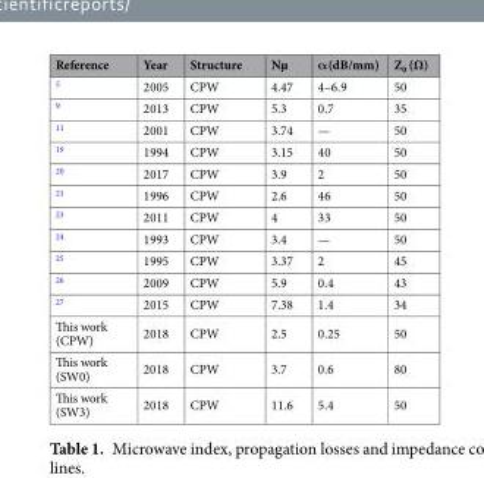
<table><thead><tr><td>Reference</td><td>Year</td><td>Structure</td><td>Nµ</td><td>α(dB/mm)</td><td>Z<sub>0</sub> (Ω)</td></tr></thead><tbody><tr><td><sup>5</sup></td><td>2005</td><td>CPW</td><td>4.47</td><td>4–6.9</td><td>50</td></tr><tr><td><sup>9</sup></td><td>2013</td><td>CPW</td><td>5.3</td><td>0.7</td><td>35</td></tr><tr><td><sup>11</sup></td><td>2001</td><td>CPW</td><td>3.74</td><td>—</td><td>50</td></tr><tr><td><sup>19</sup></td><td>1994</td><td>CPW</td><td>3.15</td><td>40</td><td>50</td></tr><tr><td><sup>20</sup></td><td>2017</td><td>CPW</td><td>3.9</td><td>2</td><td>50</td></tr><tr><td><sup>21</sup></td><td>1996</td><td>CPW</td><td>2.6</td><td>46</td><td>50</td></tr><tr><td><sup>23</sup></td><td>2011</td><td>CPW</td><td>4</td><td>33</td><td>50</td></tr><tr><td><sup>24</sup></td><td>1993</td><td>CPW</td><td>3.4</td><td>—</td><td>50</td></tr><tr><td><sup>25</sup></td><td>1995</td><td>CPW</td><td>3.37</td><td>2</td><td>45</td></tr><tr><td><sup>26</sup></td><td>2009</td><td>CPW</td><td>5.9</td><td>0.4</td><td>43</td></tr><tr><td><sup>27</sup></td><td>2015</td><td>CPW</td><td>7.38</td><td>1.4</td><td>34</td></tr><tr><td>This work (CPW)</td><td>2018</td><td>CPW</td><td>2.5</td><td>0.25</td><td>50</td></tr><tr><td>This work (SW0)</td><td>2018</td><td>CPW</td><td>3.7</td><td>0.6</td><td>80</td></tr><tr><td>This work (SW3)</td><td>2018</td><td>CPW</td><td>11.6</td><td>5.4</td><td>50</td></tr></tbody></table>